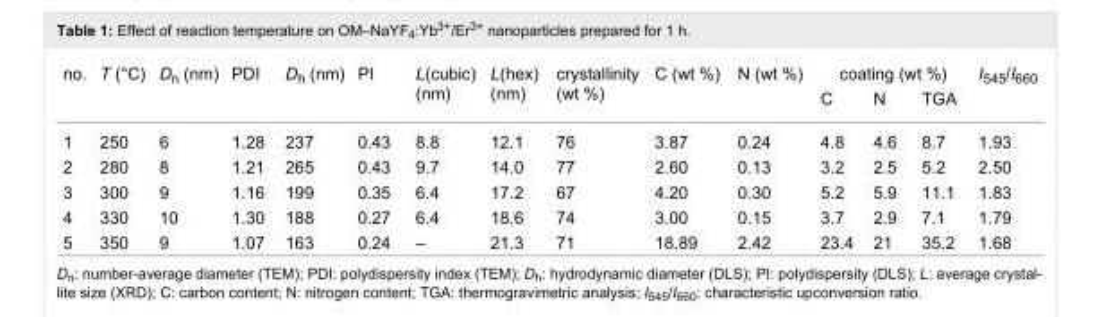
<table><tbody><tr><td rowspan="2">no.</td><td rowspan="2">T (°C)</td><td rowspan="2">D<sub>n</sub> (nm)</td><td rowspan="2">PDI</td><td rowspan="2">D<sub>h</sub> (nm)</td><td rowspan="2">PI</td><td rowspan="2">L(cubic) (nm)</td><td rowspan="2">L(hex) (nm)</td><td rowspan="2">crystallinity (wt %)</td><td rowspan="2">C (wt %)</td><td rowspan="2">N (wt %)</td><td colspan="3">coating (wt %)</td><td rowspan="2">I<sub>545</sub>/I<sub>660</sub></td></tr><tr><td>C</td><td>N</td><td>TGA</td></tr><tr><td>1</td><td>250</td><td>6</td><td>1.28</td><td>237</td><td>0.43</td><td>8.8</td><td>12.1</td><td>76</td><td>3.87</td><td>0.24</td><td>4.8</td><td>4.6</td><td>8.7</td><td>1.93</td></tr><tr><td>2</td><td>280</td><td>8</td><td>1.21</td><td>265</td><td>0.43</td><td>9.7</td><td>14.0</td><td>77</td><td>2.60</td><td>0.13</td><td>3.2</td><td>2.5</td><td>5.2</td><td>2.50</td></tr><tr><td>3</td><td>300</td><td>9</td><td>1.16</td><td>199</td><td>0.35</td><td>6.4</td><td>17.2</td><td>67</td><td>4.20</td><td>0.30</td><td>5.2</td><td>5.9</td><td>11.1</td><td>1.83</td></tr><tr><td>4</td><td>330</td><td>10</td><td>1.30</td><td>188</td><td>0.27</td><td>6.4</td><td>18.6</td><td>74</td><td>3.00</td><td>0.15</td><td>3.7</td><td>2.9</td><td>7.1</td><td>1.79</td></tr><tr><td>5</td><td>350</td><td>9</td><td>1.07</td><td>163</td><td>0.24</td><td>–</td><td>21.3</td><td>71</td><td>18.89</td><td>2.42</td><td>23.4</td><td>21</td><td>35.2</td><td>1.68</td></tr></tbody></table>